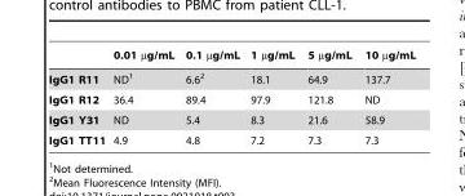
<table><thead><tr><td></td><td>0.01 µg/mL</td><td>0.1 µg/mL</td><td>1 µg/mL</td><td>5 µg/mL</td><td>10 µg/mL</td></tr></thead><tbody><tr><td>IgG1 R11</td><td>ND<sup>1</sup></td><td>6.6<sup>2</sup></td><td>18.1</td><td>64.9</td><td>137.7</td></tr><tr><td>IgG1 R12</td><td>36.4</td><td>89.4</td><td>97.9</td><td>121.8</td><td>ND</td></tr><tr><td>IgG1 Y31</td><td>ND</td><td>5.4</td><td>8.3</td><td>21.6</td><td>58.9</td></tr><tr><td>IgG1 TT11</td><td>4.9</td><td>4.8</td><td>7.2</td><td>7.3</td><td>7.3</td></tr></tbody></table>